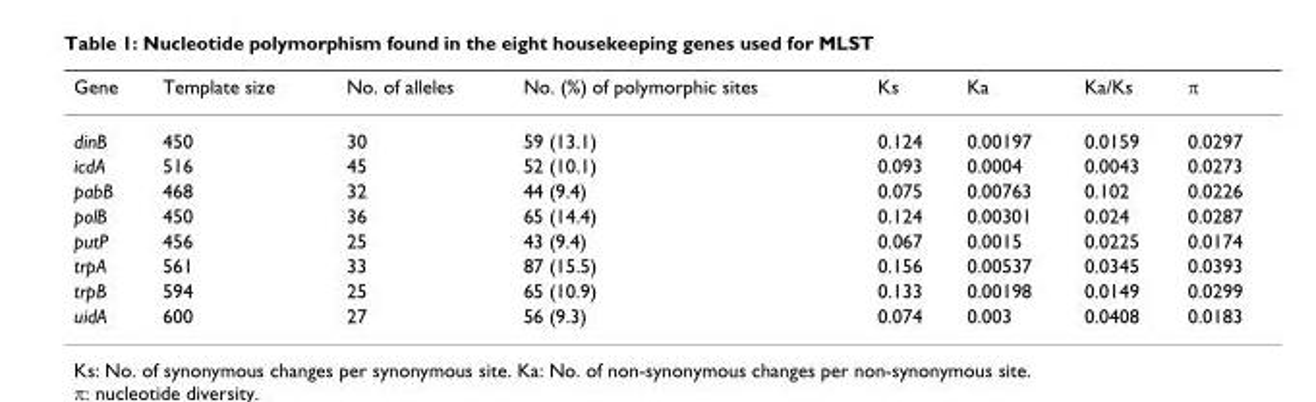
<table><thead><tr><td>Gene</td><td>Template size</td><td>No. of alleles</td><td>No. (%) of polymorphic sites</td><td>Ks</td><td>Ka</td><td>Ka/Ks</td><td>π</td></tr></thead><tbody><tr><td>dinB</td><td>450</td><td>30</td><td>59 (13.1)</td><td>0.124</td><td>0.00197</td><td>0.0159</td><td>0.0297</td></tr><tr><td>icdA</td><td>516</td><td>45</td><td>52 (10.1)</td><td>0.093</td><td>0.0004</td><td>0.0043</td><td>0.0273</td></tr><tr><td>pabB</td><td>468</td><td>32</td><td>44 (9.4)</td><td>0.075</td><td>0.00763</td><td>0.102</td><td>0.0226</td></tr><tr><td>polB</td><td>450</td><td>36</td><td>65 (14.4)</td><td>0.124</td><td>0.00301</td><td>0.024</td><td>0.0287</td></tr><tr><td>putP</td><td>456</td><td>25</td><td>43 (9.4)</td><td>0.067</td><td>0.0015</td><td>0.0225</td><td>0.0174</td></tr><tr><td>trpA</td><td>561</td><td>33</td><td>87 (15.5)</td><td>0.156</td><td>0.00537</td><td>0.0345</td><td>0.0393</td></tr><tr><td>trpB</td><td>594</td><td>25</td><td>65 (10.9)</td><td>0.133</td><td>0.00198</td><td>0.0149</td><td>0.0299</td></tr><tr><td>uidA</td><td>600</td><td>27</td><td>56 (9.3)</td><td>0.074</td><td>0.003</td><td>0.0408</td><td>0.0183</td></tr></tbody></table>